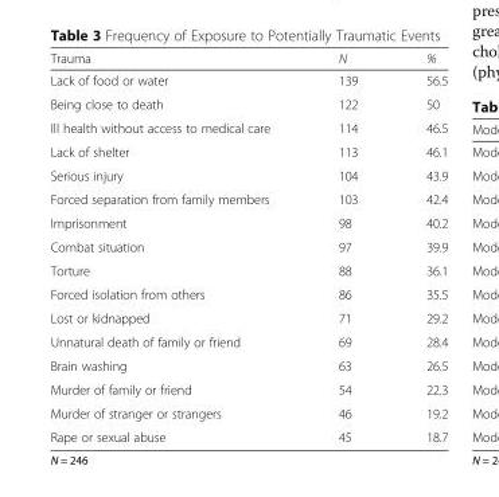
<table><thead><tr><td>Trauma</td><td>N</td><td>%</td></tr></thead><tbody><tr><td>Lack of food or water</td><td>139</td><td>56.5</td></tr><tr><td>Being close to death</td><td>122</td><td>50</td></tr><tr><td>Ill health without access to medical care</td><td>114</td><td>46.5</td></tr><tr><td>Lack of shelter</td><td>113</td><td>46.1</td></tr><tr><td>Serious injury</td><td>104</td><td>43.9</td></tr><tr><td>Forced separation from family members</td><td>103</td><td>42.4</td></tr><tr><td>Imprisonment</td><td>98</td><td>40.2</td></tr><tr><td>Combat situation</td><td>97</td><td>39.9</td></tr><tr><td>Torture</td><td>88</td><td>36.1</td></tr><tr><td>Forced isolation from others</td><td>86</td><td>35.5</td></tr><tr><td>Lost or kidnapped</td><td>71</td><td>29.2</td></tr><tr><td>Unnatural death of family or friend</td><td>69</td><td>28.4</td></tr><tr><td>Brain washing</td><td>63</td><td>26.5</td></tr><tr><td>Murder of family or friend</td><td>54</td><td>22.3</td></tr><tr><td>Murder of stranger or strangers</td><td>46</td><td>19.2</td></tr><tr><td>Rape or sexual abuse</td><td>45</td><td>18.7</td></tr></tbody></table>